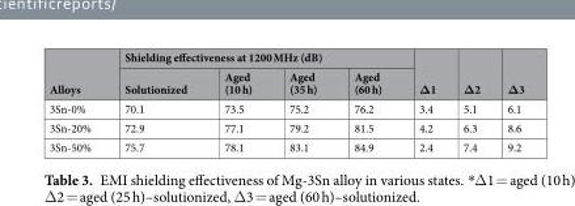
<table><thead><tr><td rowspan="2">Alloys</td><td colspan="4">Shielding effectiveness at 1200 MHz (dB)</td><td rowspan="2">Δ1</td><td rowspan="2">Δ2</td><td rowspan="2">Δ3</td></tr><tr><td>Solutionized</td><td>Aged (10 h)</td><td>Aged (35 h)</td><td>Aged (60 h)</td></tr></thead><tbody><tr><td>3Sn-0%</td><td>70.1</td><td>73.5</td><td>75.2</td><td>76.2</td><td>3.4</td><td>5.1</td><td>6.1</td></tr><tr><td>3Sn-20%</td><td>72.9</td><td>77.1</td><td>79.2</td><td>81.5</td><td>4.2</td><td>6.3</td><td>8.6</td></tr><tr><td>3Sn-50%</td><td>75.7</td><td>78.1</td><td>83.1</td><td>84.9</td><td>2.4</td><td>7.4</td><td>9.2</td></tr></tbody></table>